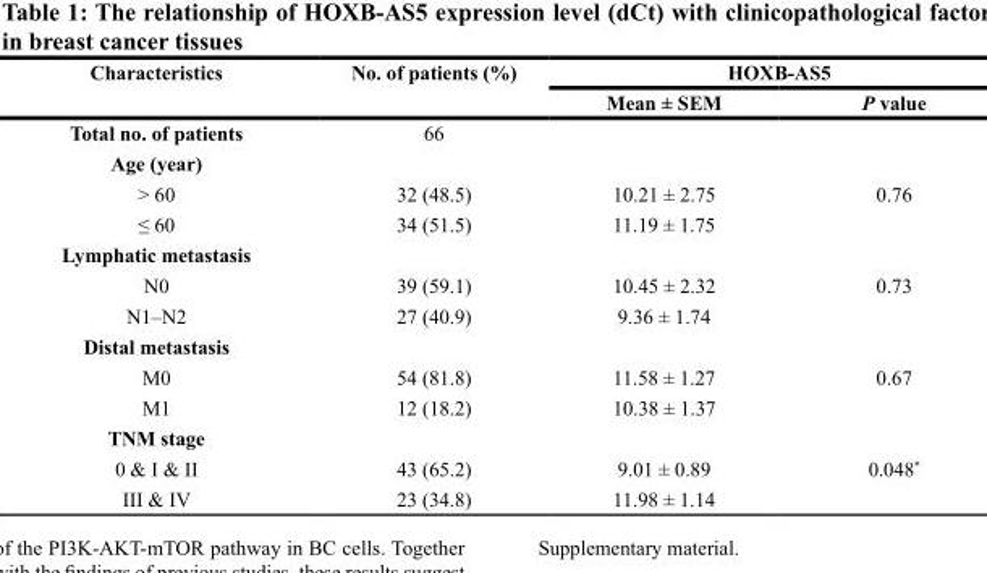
<table><thead><tr><td rowspan="2">Characteristics</td><td rowspan="2">No. of patients (%)</td><td colspan="2">HOXB-AS5</td></tr><tr><td>Mean ± SEM</td><td>P value</td></tr></thead><tbody><tr><td>Total no. of patients</td><td>66</td><td></td><td></td></tr><tr><td colspan="4">Age (year)</td></tr><tr><td>&gt; 60</td><td>32 (48.5)</td><td>10.21 ± 2.75</td><td>0.76</td></tr><tr><td>≤ 60</td><td>34 (51.5)</td><td>11.19 ± 1.75</td><td></td></tr><tr><td colspan="4">Lymphatic metastasis</td></tr><tr><td>N0</td><td>39 (59.1)</td><td>10.45 ± 2.32</td><td>0.73</td></tr><tr><td>N1–N2</td><td>27 (40.9)</td><td>9.36 ± 1.74</td><td></td></tr><tr><td colspan="4">Distal metastasis</td></tr><tr><td>M0</td><td>54 (81.8)</td><td>11.58 ± 1.27</td><td>0.67</td></tr><tr><td>M1</td><td>12 (18.2)</td><td>10.38 ± 1.37</td><td></td></tr><tr><td colspan="4">TNM stage</td></tr><tr><td>0 &amp; I &amp; II</td><td>43 (65.2)</td><td>9.01 ± 0.89</td><td>0.048*</td></tr><tr><td>III &amp; IV</td><td>23 (34.8)</td><td>11.98 ± 1.14</td><td></td></tr></tbody></table>